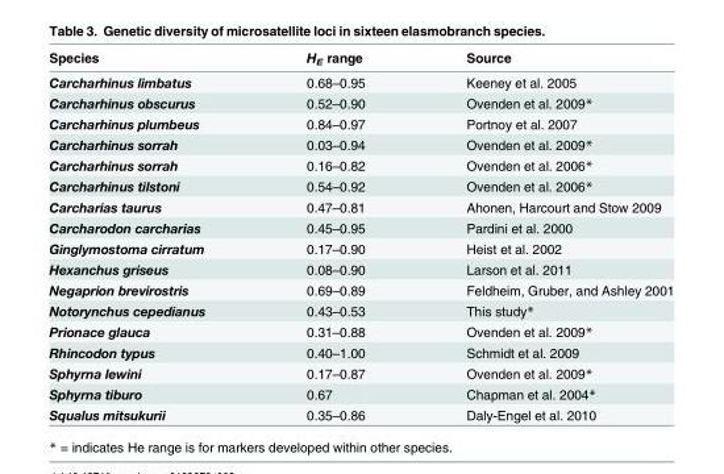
<table><thead><tr><td>Species</td><td>H<sub>E</sub> range</td><td>Source</td></tr></thead><tbody><tr><td>Carcharhinus limbatus</td><td>0.68–0.95</td><td>Keeney et al. 2005</td></tr><tr><td>Carcharhinus obscurus</td><td>0.52–0.90</td><td>Ovenden et al. 2009*</td></tr><tr><td>Carcharhinus plumbeus</td><td>0.84–0.97</td><td>Portnoy et al. 2007</td></tr><tr><td>Carcharhinus sorrah</td><td>0.03–0.94</td><td>Ovenden et al. 2009*</td></tr><tr><td>Carcharhinus sorrah</td><td>0.16–0.82</td><td>Ovenden et al. 2006*</td></tr><tr><td>Carcharhinus tilstoni</td><td>0.54–0.92</td><td>Ovenden et al. 2006*</td></tr><tr><td>Carcharias taurus</td><td>0.47–0.81</td><td>Ahonen, Harcourt and Stow 2009</td></tr><tr><td>Carcharodon carcharias</td><td>0.45–0.95</td><td>Pardini et al. 2000</td></tr><tr><td>Ginglymostoma cirratum</td><td>0.17–0.90</td><td>Heist et al. 2002</td></tr><tr><td>Hexanchus griseus</td><td>0.08–0.90</td><td>Larson et al. 2011</td></tr><tr><td>Negaprion brevirostris</td><td>0.69–0.89</td><td>Feldheim, Gruber, and Ashley 2001</td></tr><tr><td>Notorynchus cepedianus</td><td>0.43–0.53</td><td>This study*</td></tr><tr><td>Prionace glauca</td><td>0.31–0.88</td><td>Ovenden et al. 2009*</td></tr><tr><td>Rhincodon typus</td><td>0.40–1.00</td><td>Schmidt et al. 2009</td></tr><tr><td>Sphyrna lewini</td><td>0.17–0.87</td><td>Ovenden et al. 2009*</td></tr><tr><td>Sphyrna tiburo</td><td>0.67</td><td>Chapman et al. 2004*</td></tr><tr><td>Squalus mitsukurii</td><td>0.35–0.86</td><td>Daly-Engel et al. 2010</td></tr></tbody></table>